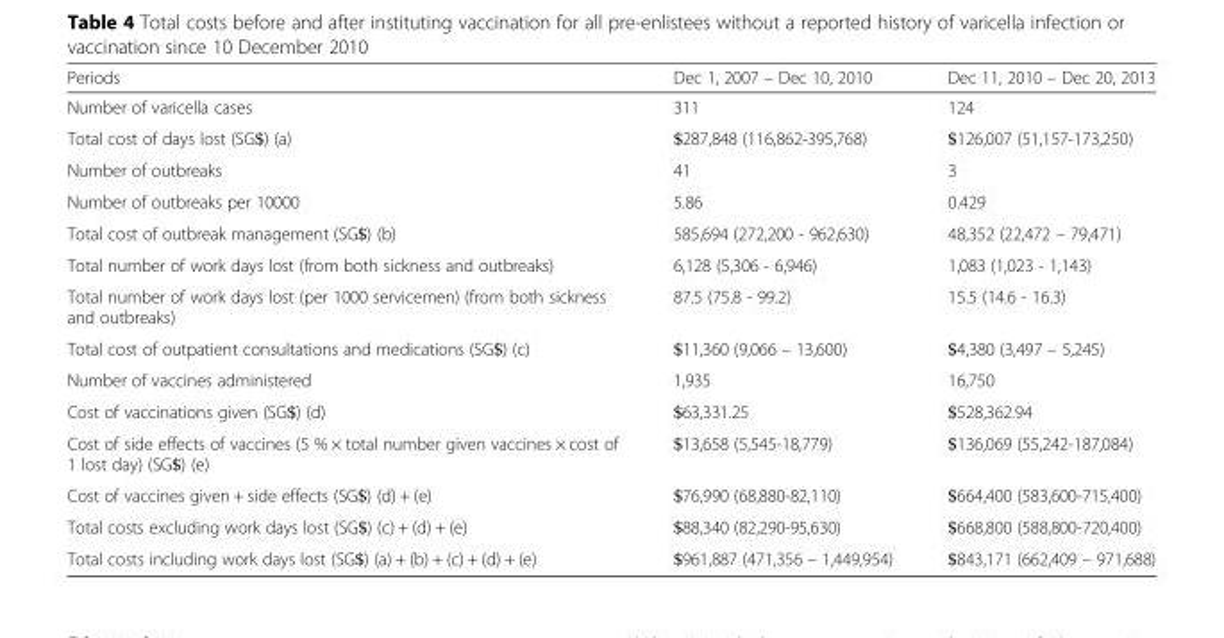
<table><thead><tr><td>Periods</td><td>Dec 1, 2007 – Dec 10, 2010</td><td>Dec 11, 2010 – Dec 20, 2013</td></tr></thead><tbody><tr><td>Number of varicella cases</td><td>311</td><td>124</td></tr><tr><td>Total cost of days lost (SG$) (a)</td><td>$287,848 (116,862-395,768)</td><td>$126,007 (51,157-173,250)</td></tr><tr><td>Number of outbreaks</td><td>41</td><td>3</td></tr><tr><td>Number of outbreaks per 10000</td><td>5.86</td><td>0.429</td></tr><tr><td>Total cost of outbreak management (SG$) (b)</td><td>585,694 (272,200 - 962,630)</td><td>48,352 (22,472 – 79,471)</td></tr><tr><td>Total number of work days lost (from both sickness and outbreaks)</td><td>6,128 (5,306 - 6,946)</td><td>1,083 (1,023 - 1,143)</td></tr><tr><td>Total number of work days lost (per 1000 servicemen) (from both sickness and outbreaks)</td><td>87.5 (75.8 - 99.2)</td><td>15.5 (14.6 - 16.3)</td></tr><tr><td>Total cost of outpatient consultations and medications (SG$) (c)</td><td>$11,360 (9,066 – 13,600)</td><td>$4,380 (3,497 – 5,245)</td></tr><tr><td>Number of vaccines administered</td><td>1,935</td><td>16,750</td></tr><tr><td>Cost of vaccinations given (SG$) (d)</td><td>$63,331.25</td><td>$528,362.94</td></tr><tr><td>Cost of side effects of vaccines (5 % × total number given vaccines × cost of 1 lost day) (SG$) (e)</td><td>$13,658 (5,545-18,779)</td><td>$136,069 (55,242-187,084)</td></tr><tr><td>Cost of vaccines given + side effects (SG$) (d) + (e)</td><td>$76,990 (68,880-82,110)</td><td>$664,400 (583,600-715,400)</td></tr><tr><td>Total costs excluding work days lost (SG$) (c) + (d) + (e)</td><td>$88,340 (82,290-95,630)</td><td>$668,800 (588,800-720,400)</td></tr><tr><td>Total costs including work days lost (SG$) (a) + (b) + (c) + (d) + (e)</td><td>$961,887 (471,356 – 1,449,954)</td><td>$843,171 (662,409 – 971,688)</td></tr></tbody></table>